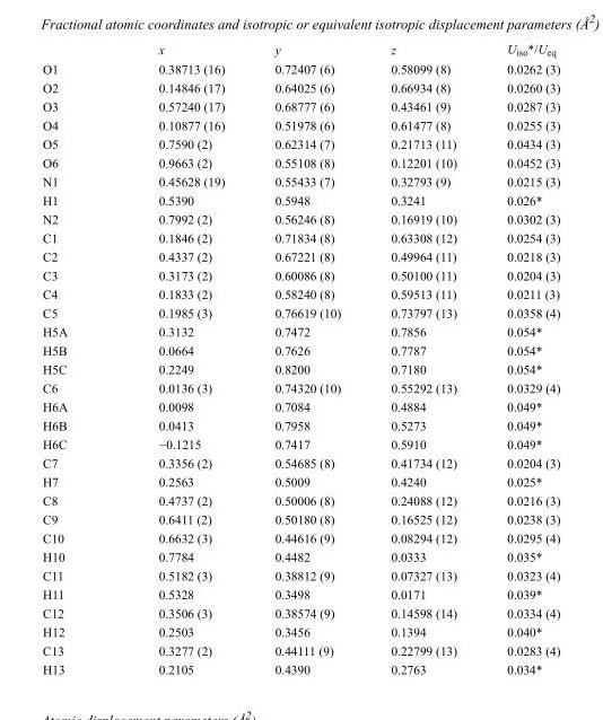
<table><thead><tr><td></td><td>x</td><td>y</td><td>z</td><td>U<sub>iso</sub>*/U<sub>eq</sub></td></tr></thead><tbody><tr><td>O1</td><td>0.38713 (16)</td><td>0.72407 (6)</td><td>0.58099 (8)</td><td>0.0262 (3)</td></tr><tr><td>O2</td><td>0.14846 (17)</td><td>0.64025 (6)</td><td>0.66934 (8)</td><td>0.0260 (3)</td></tr><tr><td>O3</td><td>0.57240 (17)</td><td>0.68777 (6)</td><td>0.43461 (9)</td><td>0.0287 (3)</td></tr><tr><td>O4</td><td>0.10877 (16)</td><td>0.51978 (6)</td><td>0.61477 (8)</td><td>0.0255 (3)</td></tr><tr><td>O5</td><td>0.7590 (2)</td><td>0.62314 (7)</td><td>0.21713 (11)</td><td>0.0434 (3)</td></tr><tr><td>O6</td><td>0.9663 (2)</td><td>0.55108 (8)</td><td>0.12201 (10)</td><td>0.0452 (3)</td></tr><tr><td>N1</td><td>0.45628 (19)</td><td>0.55433 (7)</td><td>0.32793 (9)</td><td>0.0215 (3)</td></tr><tr><td>H1</td><td>0.5390</td><td>0.5948</td><td>0.3241</td><td>0.026*</td></tr><tr><td>N2</td><td>0.7992 (2)</td><td>0.56246 (8)</td><td>0.16919 (10)</td><td>0.0302 (3)</td></tr><tr><td>C1</td><td>0.1846 (2)</td><td>0.71834 (8)</td><td>0.63308 (12)</td><td>0.0254 (3)</td></tr><tr><td>C2</td><td>0.4337 (2)</td><td>0.67221 (8)</td><td>0.49964 (11)</td><td>0.0218 (3)</td></tr><tr><td>C3</td><td>0.3173 (2)</td><td>0.60086 (8)</td><td>0.50100 (11)</td><td>0.0204 (3)</td></tr><tr><td>C4</td><td>0.1833 (2)</td><td>0.58240 (8)</td><td>0.59513 (11)</td><td>0.0211 (3)</td></tr><tr><td>C5</td><td>0.1985 (3)</td><td>0.76619 (10)</td><td>0.73797 (13)</td><td>0.0358 (4)</td></tr><tr><td>H5A</td><td>0.3132</td><td>0.7472</td><td>0.7856</td><td>0.054*</td></tr><tr><td>H5B</td><td>0.0664</td><td>0.7626</td><td>0.7787</td><td>0.054*</td></tr><tr><td>H5C</td><td>0.2249</td><td>0.8200</td><td>0.7180</td><td>0.054*</td></tr><tr><td>C6</td><td>0.0136 (3)</td><td>0.74320 (10)</td><td>0.55292 (13)</td><td>0.0329 (4)</td></tr><tr><td>H6A</td><td>0.0098</td><td>0.7084</td><td>0.4884</td><td>0.049*</td></tr><tr><td>H6B</td><td>0.0413</td><td>0.7958</td><td>0.5273</td><td>0.049*</td></tr><tr><td>H6C</td><td>−0.1215</td><td>0.7417</td><td>0.5910</td><td>0.049*</td></tr><tr><td>C7</td><td>0.3356 (2)</td><td>0.54685 (8)</td><td>0.41734 (12)</td><td>0.0204 (3)</td></tr><tr><td>H7</td><td>0.2563</td><td>0.5009</td><td>0.4240</td><td>0.025*</td></tr><tr><td>C8</td><td>0.4737 (2)</td><td>0.50006 (8)</td><td>0.24088 (12)</td><td>0.0216 (3)</td></tr><tr><td>C9</td><td>0.6411 (2)</td><td>0.50180 (8)</td><td>0.16525 (12)</td><td>0.0238 (3)</td></tr><tr><td>C10</td><td>0.6632 (3)</td><td>0.44616 (9)</td><td>0.08294 (12)</td><td>0.0295 (4)</td></tr><tr><td>H10</td><td>0.7784</td><td>0.4482</td><td>0.0333</td><td>0.035*</td></tr><tr><td>C11</td><td>0.5182 (3)</td><td>0.38812 (9)</td><td>0.07327 (13)</td><td>0.0323 (4)</td></tr><tr><td>H11</td><td>0.5328</td><td>0.3498</td><td>0.0171</td><td>0.039*</td></tr><tr><td>C12</td><td>0.3506 (3)</td><td>0.38574 (9)</td><td>0.14598 (14)</td><td>0.0334 (4)</td></tr><tr><td>H12</td><td>0.2503</td><td>0.3456</td><td>0.1394</td><td>0.040*</td></tr><tr><td>C13</td><td>0.3277 (2)</td><td>0.44111 (9)</td><td>0.22799 (13)</td><td>0.0283 (4)</td></tr><tr><td>H13</td><td>0.2105</td><td>0.4390</td><td>0.2763</td><td>0.034*</td></tr></tbody></table>